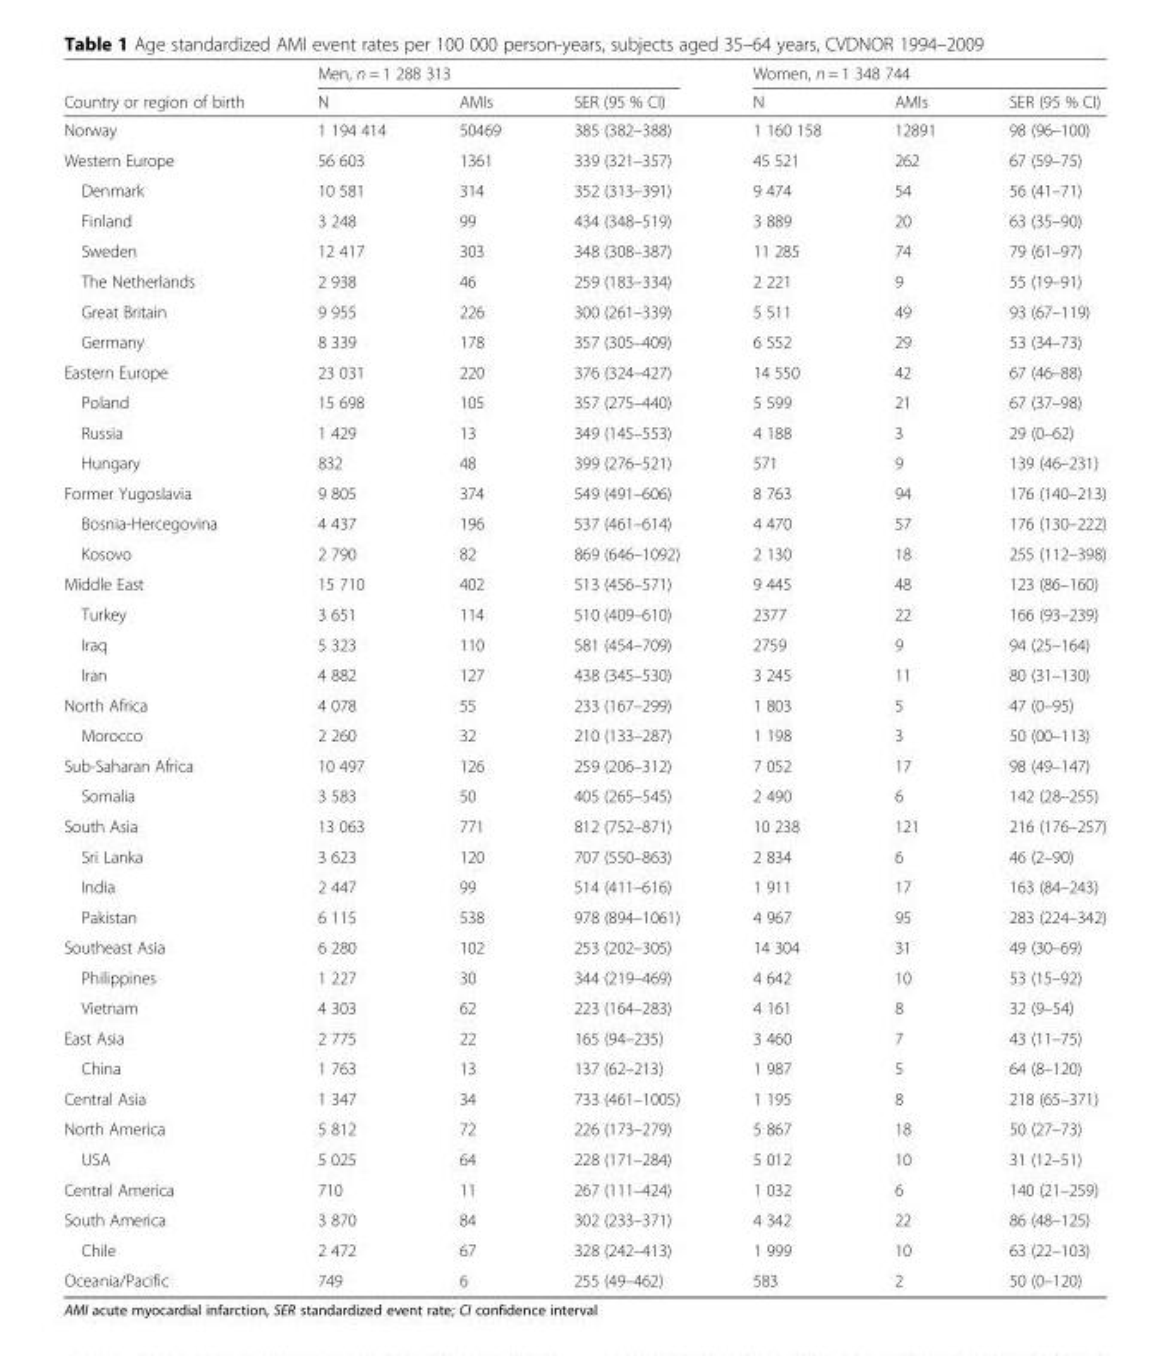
<table><thead><tr><td rowspan="2">Country or region of birth</td><td colspan="3">Men, n = 1 288 313</td><td colspan="3">Women, n = 1 348 744</td></tr><tr><td>N</td><td>AMIs</td><td>SER (95 % CI)</td><td>N</td><td>AMIs</td><td>SER (95 % CI)</td></tr></thead><tbody><tr><td>Norway</td><td>1 194 414</td><td>50469</td><td>385 (382–388)</td><td>1 160 158</td><td>12891</td><td>98 (96–100)</td></tr><tr><td>Western Europe</td><td>56 603</td><td>1361</td><td>339 (321–357)</td><td>45 521</td><td>262</td><td>67 (59–75)</td></tr><tr><td>Denmark</td><td>10 581</td><td>314</td><td>352 (313–391)</td><td>9 474</td><td>54</td><td>56 (41–71)</td></tr><tr><td>Finland</td><td>3 248</td><td>99</td><td>434 (348–519)</td><td>3 889</td><td>20</td><td>63 (35–90)</td></tr><tr><td>Sweden</td><td>12 417</td><td>303</td><td>348 (308–387)</td><td>11 285</td><td>74</td><td>79 (61–97)</td></tr><tr><td>The Netherlands</td><td>2 938</td><td>46</td><td>259 (183–334)</td><td>2 221</td><td>9</td><td>55 (19–91)</td></tr><tr><td>Great Britain</td><td>9 955</td><td>226</td><td>300 (261–339)</td><td>5 511</td><td>49</td><td>93 (67–119)</td></tr><tr><td>Germany</td><td>8 339</td><td>178</td><td>357 (305–409)</td><td>6 552</td><td>29</td><td>53 (34–73)</td></tr><tr><td>Eastern Europe</td><td>23 031</td><td>220</td><td>376 (324–427)</td><td>14 550</td><td>42</td><td>67 (46–88)</td></tr><tr><td>Poland</td><td>15 698</td><td>105</td><td>357 (275–440)</td><td>5 599</td><td>21</td><td>67 (37–98)</td></tr><tr><td>Russia</td><td>1 429</td><td>13</td><td>349 (145–553)</td><td>4 188</td><td>3</td><td>29 (0–62)</td></tr><tr><td>Hungary</td><td>832</td><td>48</td><td>399 (276–521)</td><td>571</td><td>9</td><td>139 (46–231)</td></tr><tr><td>Former Yugoslavia</td><td>9 805</td><td>374</td><td>549 (491–606)</td><td>8 763</td><td>94</td><td>176 (140–213)</td></tr><tr><td>Bosnia-Hercegovina</td><td>4 437</td><td>196</td><td>537 (461–614)</td><td>4 470</td><td>57</td><td>176 (130–222)</td></tr><tr><td>Kosovo</td><td>2 790</td><td>82</td><td>869 (646–1092)</td><td>2 130</td><td>18</td><td>255 (112–398)</td></tr><tr><td>Middle East</td><td>15 710</td><td>402</td><td>513 (456–571)</td><td>9 445</td><td>48</td><td>123 (86–160)</td></tr><tr><td>Turkey</td><td>3 651</td><td>114</td><td>510 (409–610)</td><td>2377</td><td>22</td><td>166 (93–239)</td></tr><tr><td>Iraq</td><td>5 323</td><td>110</td><td>581 (454–709)</td><td>2759</td><td>9</td><td>94 (25–164)</td></tr><tr><td>Iran</td><td>4 882</td><td>127</td><td>438 (345–530)</td><td>3 245</td><td>11</td><td>80 (31–130)</td></tr><tr><td>North Africa</td><td>4 078</td><td>55</td><td>233 (167–299)</td><td>1 803</td><td>5</td><td>47 (0–95)</td></tr><tr><td>Morocco</td><td>2 260</td><td>32</td><td>210 (133–287)</td><td>1 198</td><td>3</td><td>50 (00–113)</td></tr><tr><td>Sub-Saharan Africa</td><td>10 497</td><td>126</td><td>259 (206–312)</td><td>7 052</td><td>17</td><td>98 (49–147)</td></tr><tr><td>Somalia</td><td>3 583</td><td>50</td><td>405 (265–545)</td><td>2 490</td><td>6</td><td>142 (28–255)</td></tr><tr><td>South Asia</td><td>13 063</td><td>771</td><td>812 (752–871)</td><td>10 238</td><td>121</td><td>216 (176–257)</td></tr><tr><td>Sri Lanka</td><td>3 623</td><td>120</td><td>707 (550–863)</td><td>2 834</td><td>6</td><td>46 (2–90)</td></tr><tr><td>India</td><td>2 447</td><td>99</td><td>514 (411–616)</td><td>1 911</td><td>17</td><td>163 (84–243)</td></tr><tr><td>Pakistan</td><td>6 115</td><td>538</td><td>978 (894–1061)</td><td>4 967</td><td>95</td><td>283 (224–342)</td></tr><tr><td>Southeast Asia</td><td>6 280</td><td>102</td><td>253 (202–305)</td><td>14 304</td><td>31</td><td>49 (30–69)</td></tr><tr><td>Philippines</td><td>1 227</td><td>30</td><td>344 (219–469)</td><td>4 642</td><td>10</td><td>53 (15–92)</td></tr><tr><td>Vietnam</td><td>4 303</td><td>62</td><td>223 (164–283)</td><td>4 161</td><td>8</td><td>32 (9–54)</td></tr><tr><td>East Asia</td><td>2 775</td><td>22</td><td>165 (94–235)</td><td>3 460</td><td>7</td><td>43 (11–75)</td></tr><tr><td>China</td><td>1 763</td><td>13</td><td>137 (62–213)</td><td>1 987</td><td>5</td><td>64 (8–120)</td></tr><tr><td>Central Asia</td><td>1 347</td><td>34</td><td>733 (461–1005)</td><td>1 195</td><td>8</td><td>218 (65–371)</td></tr><tr><td>North America</td><td>5 812</td><td>72</td><td>226 (173–279)</td><td>5 867</td><td>18</td><td>50 (27–73)</td></tr><tr><td>USA</td><td>5 025</td><td>64</td><td>228 (171–284)</td><td>5 012</td><td>10</td><td>31 (12–51)</td></tr><tr><td>Central America</td><td>710</td><td>11</td><td>267 (111–424)</td><td>1 032</td><td>6</td><td>140 (21–259)</td></tr><tr><td>South America</td><td>3 870</td><td>84</td><td>302 (233–371)</td><td>4 342</td><td>22</td><td>86 (48–125)</td></tr><tr><td>Chile</td><td>2 472</td><td>67</td><td>328 (242–413)</td><td>1 999</td><td>10</td><td>63 (22–103)</td></tr><tr><td>Oceania/Pacific</td><td>749</td><td>6</td><td>255 (49–462)</td><td>583</td><td>2</td><td>50 (0–120)</td></tr></tbody></table>